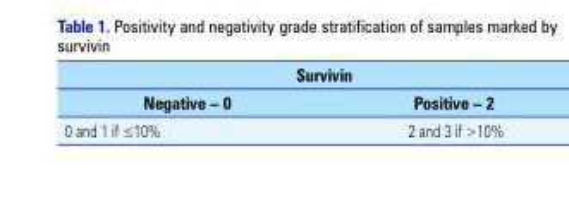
<table><thead><tr><td colspan="2">Survivin</td></tr><tr><td>Negative – 0</td><td>Positive – 2</td></tr></thead><tbody><tr><td>0 and 1 if ≤10%</td><td>2 and 3 if &gt;10%</td></tr></tbody></table>